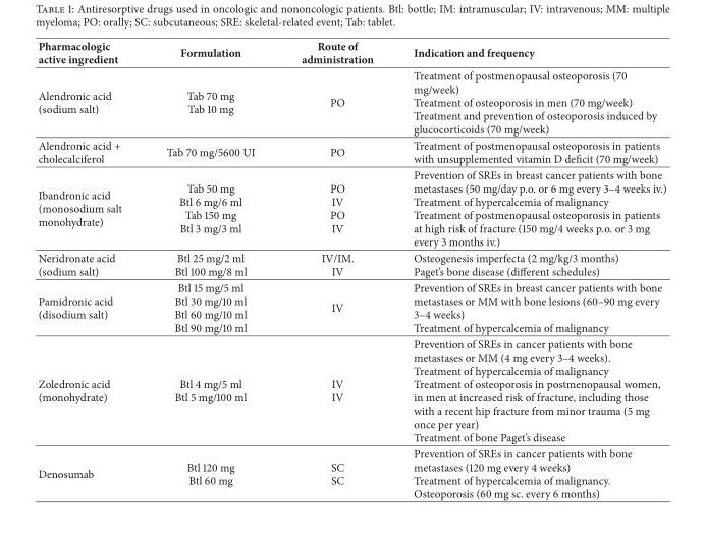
<table><thead><tr><td>Pharmacologic active ingredient</td><td>Formulation</td><td>Route of administration</td><td>Indication and frequency</td></tr></thead><tbody><tr><td>Alendronic acid (sodium salt)</td><td>Tab 70 mg Tab 10 mg</td><td>PO</td><td>Treatment of postmenopausal osteoporosis (70 mg/week) Treatment of osteoporosis in men (70 mg/week) Treatment and prevention of osteoporosis induced by glucocorticoids (70 mg/week)</td></tr><tr><td>Alendronic acid + cholecalciferol</td><td>Tab 70 mg/5600 UI</td><td>PO</td><td>Treatment of postmenopausal osteoporosis in patients with unsupplemented vitamin D deficit (70 mg/week)</td></tr><tr><td>Ibandronic acid (monosodium salt monohydrate)</td><td>Tab 50 mg Btl 6 mg/6 ml Tab 150 mg Btl 3 mg/3 ml</td><td>PO IV PO IV</td><td>Prevention of SREs in breast cancer patients with bone metastases (50 mg/day p.o. or 6 mg every 3–4 weeks iv.) Treatment of hypercalcemia of malignancy Treatment of postmenopausal osteoporosis in patients at high risk of fracture (150 mg/4 weeks p.o. or 3 mg every 3 months iv.)</td></tr><tr><td>Neridronate acid (sodium salt)</td><td>Btl 25 mg/2 ml Btl 100 mg/8 ml</td><td>IV/IM. IV</td><td>Osteogenesis imperfecta (2 mg/kg/3 months) Paget’s bone disease (different schedules)</td></tr><tr><td>Pamidronic acid (disodium salt)</td><td>Btl 15 mg/5 ml Btl 30 mg/10 ml Btl 60 mg/10 ml Btl 90 mg/10 ml</td><td>IV</td><td>Prevention of SREs in breast cancer patients with bone metastases or MM with bone lesions (60–90 mg every 3–4 weeks) Treatment of hypercalcemia of malignancy</td></tr><tr><td>Zoledronic acid (monohydrate)</td><td>Btl 4 mg/5 ml Btl 5 mg/100 ml</td><td>IV IV</td><td>Prevention of SREs in cancer patients with bone metastases or MM (4 mg every 3–4 weeks). Treatment of hypercalcemia of malignancy Treatment of osteoporosis in postmenopausal women, in men at increased risk of fracture, including those with a recent hip fracture from minor trauma (5 mg once per year) Treatment of bone Paget’s disease</td></tr><tr><td>Denosumab</td><td>Btl 120 mg Btl 60 mg</td><td>SC SC</td><td>Prevention of SREs in cancer patients with bone metastases (120 mg every 4 weeks) Treatment of hypercalcemia of malignancy. Osteoporosis (60 mg sc. every 6 months)</td></tr></tbody></table>